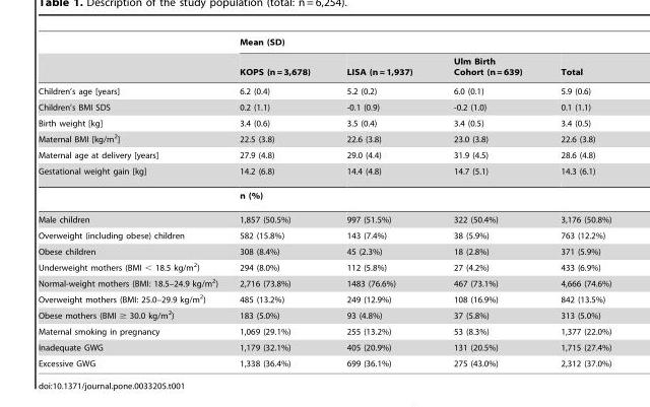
<table><thead><tr><td rowspan="2"></td><td colspan="4">Mean (SD)</td></tr><tr><td>KOPS (n = 3,678)</td><td>LISA (n = 1,937)</td><td>Ulm Birth Cohort (n = 639)</td><td>Total</td></tr></thead><tbody><tr><td>Children’s age [years]</td><td>6.2 (0.4)</td><td>5.2 (0.2)</td><td>6.0 (0.1)</td><td>5.9 (0.6)</td></tr><tr><td>Children’s BMI SDS</td><td>0.2 (1.1)</td><td>-0.1 (0.9)</td><td>-0.2 (1.0)</td><td>0.1 (1.1)</td></tr><tr><td>Birth weight [kg]</td><td>3.4 (0.6)</td><td>3.5 (0.4)</td><td>3.4 (0.5)</td><td>3.4 (0.5)</td></tr><tr><td>Maternal BMI [kg/m<sup>2</sup>]</td><td>22.5 (3.8)</td><td>22.6 (3.8)</td><td>23.0 (3.8)</td><td>22.6 (3.8)</td></tr><tr><td>Maternal age at delivery [years]</td><td>27.9 (4.8)</td><td>29.0 (4.4)</td><td>31.9 (4.5)</td><td>28.6 (4.8)</td></tr><tr><td rowspan="2">Gestational weight gain [kg]</td><td>14.2 (6.8)</td><td>14.4 (4.8)</td><td>14.7 (5.1)</td><td>14.3 (6.1)</td></tr><tr><td>n (%)</td><td></td><td></td><td></td></tr><tr><td>Male children</td><td>1,857 (50.5%)</td><td>997 (51.5%)</td><td>322 (50.4%)</td><td>3,176 (50.8%)</td></tr><tr><td>Overweight (including obese) children</td><td>582 (15.8%)</td><td>143 (7.4%)</td><td>38 (5.9%)</td><td>763 (12.2%)</td></tr><tr><td>Obese children</td><td>308 (8.4%)</td><td>45 (2.3%)</td><td>18 (2.8%)</td><td>371 (5.9%)</td></tr><tr><td>Underweight mothers (BMI &lt; 18.5 kg/m<sup>2</sup>)</td><td>294 (8.0%)</td><td>112 (5.8%)</td><td>27 (4.2%)</td><td>433 (6.9%)</td></tr><tr><td>Normal-weight mothers (BMI: 18.5–24.9 kg/m<sup>2</sup>)</td><td>2,716 (73.8%)</td><td>1483 (76.6%)</td><td>467 (73.1%)</td><td>4,666 (74.6%)</td></tr><tr><td>Overweight mothers (BMI: 25.0–29.9 kg/m<sup>2</sup>)</td><td>485 (13.2%)</td><td>249 (12.9%)</td><td>108 (16.9%)</td><td>842 (13.5%)</td></tr><tr><td>Obese mothers (BMI ≥ 30.0 kg/m<sup>2</sup>)</td><td>183 (5.0%)</td><td>93 (4.8%)</td><td>37 (5.8%)</td><td>313 (5.0%)</td></tr><tr><td>Maternal smoking in pregnancy</td><td>1,069 (29.1%)</td><td>255 (13.2%)</td><td>53 (8.3%)</td><td>1,377 (22.0%)</td></tr><tr><td>Inadequate GWG</td><td>1,179 (32.1%)</td><td>405 (20.9%)</td><td>131 (20.5%)</td><td>1,715 (27.4%)</td></tr><tr><td>Excessive GWG</td><td>1,338 (36.4%)</td><td>699 (36.1%)</td><td>275 (43.0%)</td><td>2,312 (37.0%)</td></tr></tbody></table>